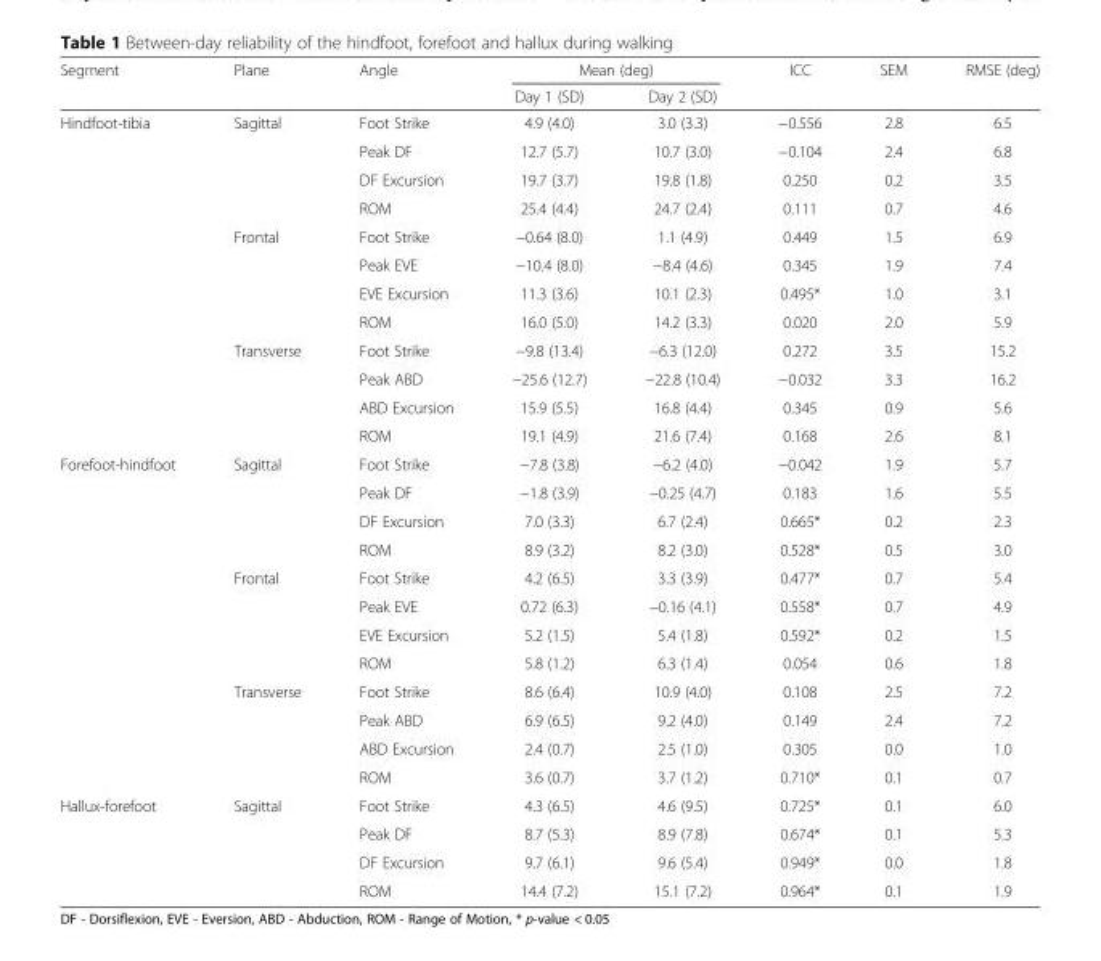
<table><thead><tr><td rowspan="2">Segment</td><td rowspan="2">Plane</td><td rowspan="2">Angle</td><td colspan="2">Mean (deg)</td><td rowspan="2">ICC</td><td rowspan="2">SEM</td><td rowspan="2">RMSE (deg)</td></tr><tr><td>Day 1 (SD)</td><td>Day 2 (SD)</td></tr></thead><tbody><tr><td rowspan="12">Hindfoot-tibia</td><td>Sagittal</td><td>Foot Strike</td><td>4.9 (4.0)</td><td>3.0 (3.3)</td><td>−0.556</td><td>2.8</td><td>6.5</td></tr><tr><td></td><td>Peak DF</td><td>12.7 (5.7)</td><td>10.7 (3.0)</td><td>−0.104</td><td>2.4</td><td>6.8</td></tr><tr><td></td><td>DF Excursion</td><td>19.7 (3.7)</td><td>19.8 (1.8)</td><td>0.250</td><td>0.2</td><td>3.5</td></tr><tr><td></td><td>ROM</td><td>25.4 (4.4)</td><td>24.7 (2.4)</td><td>0.111</td><td>0.7</td><td>4.6</td></tr><tr><td>Frontal</td><td>Foot Strike</td><td>−0.64 (8.0)</td><td>1.1 (4.9)</td><td>0.449</td><td>1.5</td><td>6.9</td></tr><tr><td></td><td>Peak EVE</td><td>−10.4 (8.0)</td><td>−8.4 (4.6)</td><td>0.345</td><td>1.9</td><td>7.4</td></tr><tr><td></td><td>EVE Excursion</td><td>11.3 (3.6)</td><td>10.1 (2.3)</td><td>0.495*</td><td>1.0</td><td>3.1</td></tr><tr><td></td><td>ROM</td><td>16.0 (5.0)</td><td>14.2 (3.3)</td><td>0.020</td><td>2.0</td><td>5.9</td></tr><tr><td>Transverse</td><td>Foot Strike</td><td>−9.8 (13.4)</td><td>−6.3 (12.0)</td><td>0.272</td><td>3.5</td><td>15.2</td></tr><tr><td></td><td>Peak ABD</td><td>−25.6 (12.7)</td><td>−22.8 (10.4)</td><td>−0.032</td><td>3.3</td><td>16.2</td></tr><tr><td></td><td>ABD Excursion</td><td>15.9 (5.5)</td><td>16.8 (4.4)</td><td>0.345</td><td>0.9</td><td>5.6</td></tr><tr><td></td><td>ROM</td><td>19.1 (4.9)</td><td>21.6 (7.4)</td><td>0.168</td><td>2.6</td><td>8.1</td></tr><tr><td rowspan="12">Forefoot-hindfoot</td><td>Sagittal</td><td>Foot Strike</td><td>−7.8 (3.8)</td><td>−6.2 (4.0)</td><td>−0.042</td><td>1.9</td><td>5.7</td></tr><tr><td></td><td>Peak DF</td><td>−1.8 (3.9)</td><td>−0.25 (4.7)</td><td>0.183</td><td>1.6</td><td>5.5</td></tr><tr><td></td><td>DF Excursion</td><td>7.0 (3.3)</td><td>6.7 (2.4)</td><td>0.665*</td><td>0.2</td><td>2.3</td></tr><tr><td></td><td>ROM</td><td>8.9 (3.2)</td><td>8.2 (3.0)</td><td>0.528*</td><td>0.5</td><td>3.0</td></tr><tr><td>Frontal</td><td>Foot Strike</td><td>4.2 (6.5)</td><td>3.3 (3.9)</td><td>0.477*</td><td>0.7</td><td>5.4</td></tr><tr><td></td><td>Peak EVE</td><td>0.72 (6.3)</td><td>−0.16 (4.1)</td><td>0.558*</td><td>0.7</td><td>4.9</td></tr><tr><td></td><td>EVE Excursion</td><td>5.2 (1.5)</td><td>5.4 (1.8)</td><td>0.592*</td><td>0.2</td><td>1.5</td></tr><tr><td></td><td>ROM</td><td>5.8 (1.2)</td><td>6.3 (1.4)</td><td>0.054</td><td>0.6</td><td>1.8</td></tr><tr><td>Transverse</td><td>Foot Strike</td><td>8.6 (6.4)</td><td>10.9 (4.0)</td><td>0.108</td><td>2.5</td><td>7.2</td></tr><tr><td></td><td>Peak ABD</td><td>6.9 (6.5)</td><td>9.2 (4.0)</td><td>0.149</td><td>2.4</td><td>7.2</td></tr><tr><td></td><td>ABD Excursion</td><td>2.4 (0.7)</td><td>2.5 (1.0)</td><td>0.305</td><td>0.0</td><td>1.0</td></tr><tr><td></td><td>ROM</td><td>3.6 (0.7)</td><td>3.7 (1.2)</td><td>0.710*</td><td>0.1</td><td>0.7</td></tr><tr><td rowspan="4">Hallux-forefoot</td><td>Sagittal</td><td>Foot Strike</td><td>4.3 (6.5)</td><td>4.6 (9.5)</td><td>0.725*</td><td>0.1</td><td>6.0</td></tr><tr><td></td><td>Peak DF</td><td>8.7 (5.3)</td><td>8.9 (7.8)</td><td>0.674*</td><td>0.1</td><td>5.3</td></tr><tr><td></td><td>DF Excursion</td><td>9.7 (6.1)</td><td>9.6 (5.4)</td><td>0.949*</td><td>0.0</td><td>1.8</td></tr><tr><td></td><td>ROM</td><td>14.4 (7.2)</td><td>15.1 (7.2)</td><td>0.964*</td><td>0.1</td><td>1.9</td></tr></tbody></table>